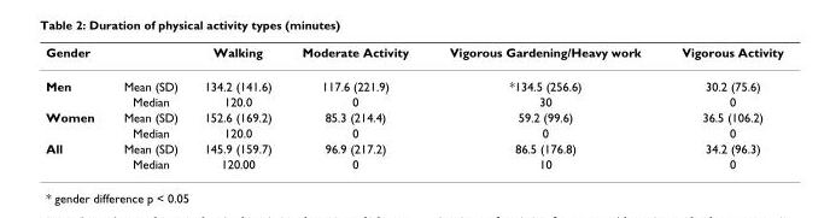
<table><thead><tr><td>Gender</td><td></td><td>Walking</td><td>Moderate Activity</td><td>Vigorous Gardening/Heavy work</td><td>Vigorous Activity</td></tr></thead><tbody><tr><td rowspan="2">Men</td><td>Mean (SD)</td><td>134.2 (141.6)</td><td>117.6 (221.9)</td><td>*134.5 (256.6)</td><td>30.2 (75.6)</td></tr><tr><td>Median</td><td>120.0</td><td>0</td><td>30</td><td>0</td></tr><tr><td rowspan="2">Women</td><td>Mean (SD)</td><td>152.6 (169.2)</td><td>85.3 (214.4)</td><td>59.2 (99.6)</td><td>36.5 (106.2)</td></tr><tr><td>Median</td><td>120.0</td><td>0</td><td>0</td><td>0</td></tr><tr><td rowspan="2">All</td><td>Mean (SD)</td><td>145.9 (159.7)</td><td>96.9 (217.2)</td><td>86.5 (176.8)</td><td>34.2 (96.3)</td></tr><tr><td>Median</td><td>120.00</td><td>0</td><td>10</td><td>0</td></tr></tbody></table>